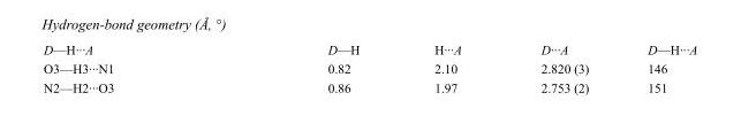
<table><tbody><tr><td>D—H···A</td><td>D—H</td><td>H···A</td><td>D···A</td><td>D—H···A</td></tr><tr><td>O3—H3···N1</td><td>0.82</td><td>2.10</td><td>2.820 (3)</td><td>146</td></tr><tr><td>N2—H2···O3</td><td>0.86</td><td>1.97</td><td>2.753 (2)</td><td>151</td></tr></tbody></table>